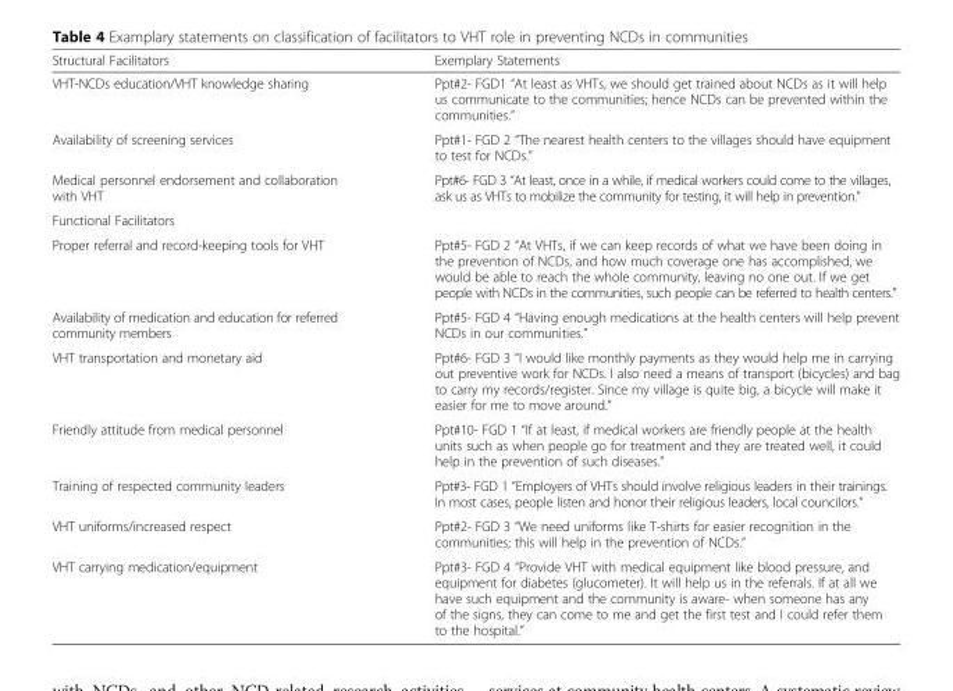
<table><thead><tr><td>Structural Facilitators</td><td>Exemplary Statements</td></tr></thead><tbody><tr><td>VHT-NCDs education/VHT knowledge sharing</td><td>Ppt#2- FGD1 “At least as VHTs, we should get trained about NCDs as it will help us communicate to the communities; hence NCDs can be prevented within the communities.”</td></tr><tr><td>Availability of screening services</td><td>Ppt#1- FGD 2 “The nearest health centers to the villages should have equipment to test for NCDs.”</td></tr><tr><td>Medical personnel endorsement and collaboration with VHT</td><td>Ppt#6- FGD 3 “At least, once in a while, if medical workers could come to the villages, ask us as VHTs to mobilize the community for testing, it will help in prevention.”</td></tr><tr><td colspan="2">Functional Facilitators</td></tr><tr><td>Proper referral and record-keeping tools for VHT</td><td>Ppt#5- FGD 2 “At VHTs, if we can keep records of what we have been doing in the prevention of NCDs, and how much coverage one has accomplished, we would be able to reach the whole community, leaving no one out. If we get people with NCDs in the communities, such people can be referred to health centers.”</td></tr><tr><td>Availability of medication and education for referred community members</td><td>Ppt#5- FGD 4 “Having enough medications at the health centers will help prevent NCDs in our communities.”</td></tr><tr><td>VHT transportation and monetary aid</td><td>Ppt#6- FGD 3 “I would like monthly payments as they would help me in carrying out preventive work for NCDs. I also need a means of transport (bicycles) and bag to carry my records/register. Since my village is quite big, a bicycle will make it easier for me to move around.”</td></tr><tr><td>Friendly attitude from medical personnel</td><td>Ppt#10- FGD 1 “If at least, if medical workers are friendly people at the health units such as when people go for treatment and they are treated well, it could help in the prevention of such diseases.”</td></tr><tr><td>Training of respected community leaders</td><td>Ppt#3- FGD 1 “Employers of VHTs should involve religious leaders in their trainings. In most cases, people listen and honor their religious leaders, local councilors.”</td></tr><tr><td>VHT uniforms/increased respect</td><td>Ppt#2- FGD 3 “We need uniforms like T-shirts for easier recognition in the communities; this will help in the prevention of NCDs.”</td></tr><tr><td>VHT carrying medication/equipment</td><td>Ppt#3- FGD 4 “Provide VHT with medical equipment like blood pressure, and equipment for diabetes (glucometer). It will help us in the referrals. If at all we have such equipment and the community is aware- when someone has any of the signs, they can come to me and get the first test and I could refer them to the hospital.”</td></tr></tbody></table>